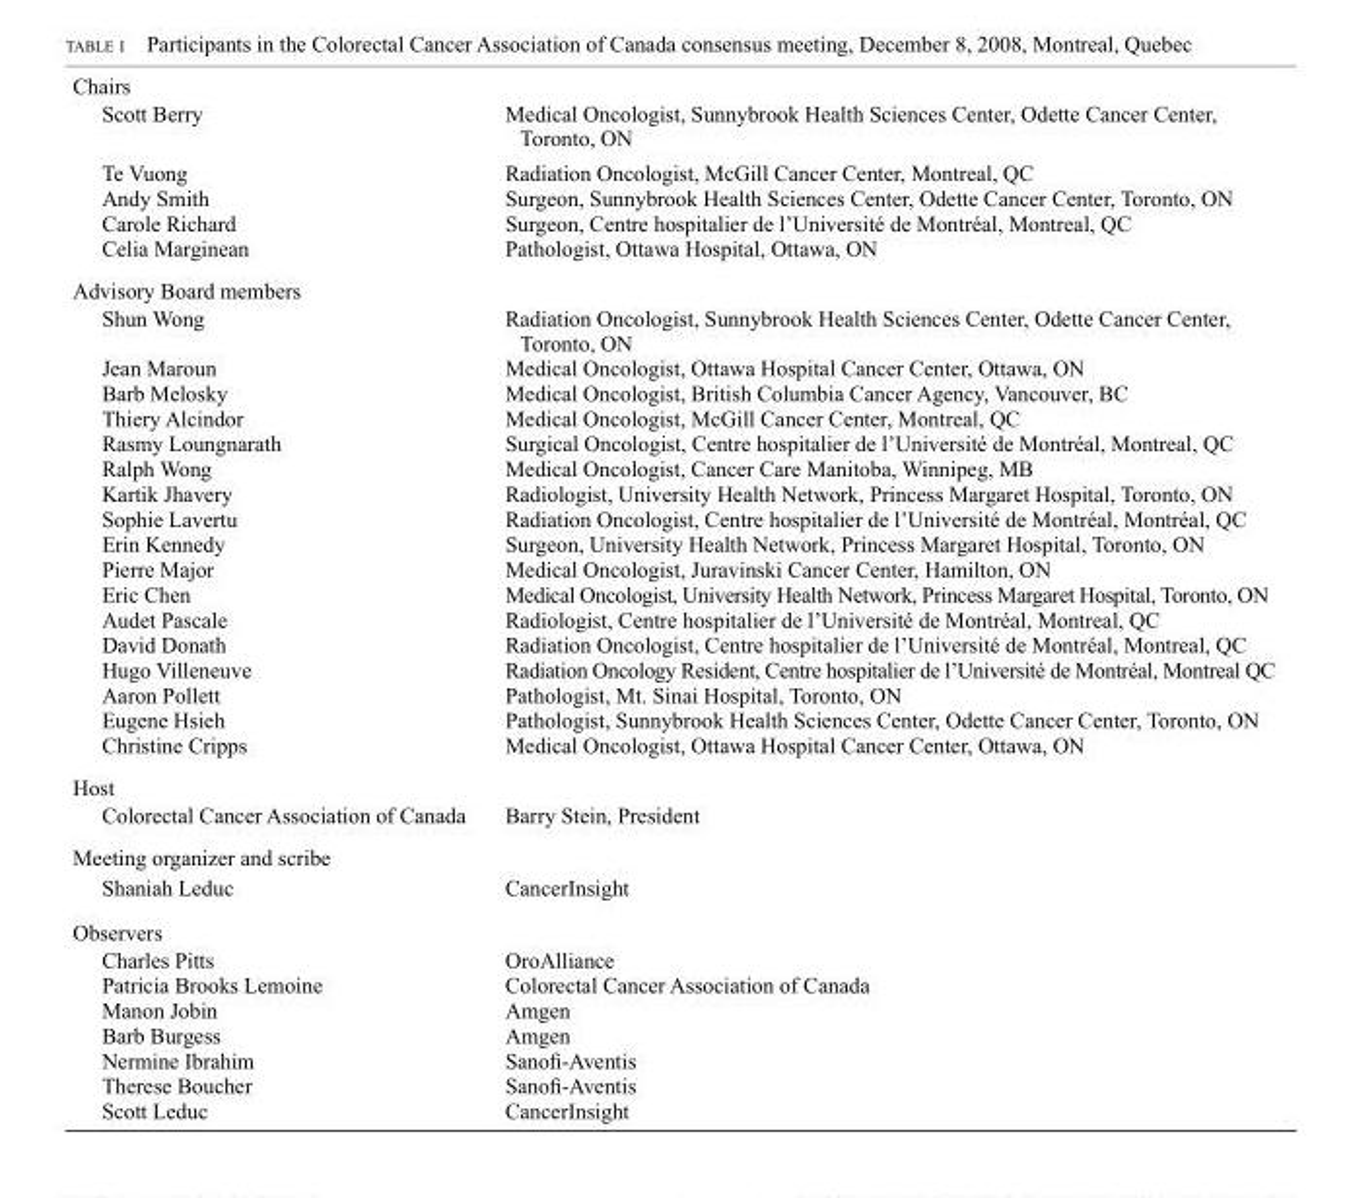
<table><tbody><tr><td colspan="2">Chairs</td></tr><tr><td>Scott Berry</td><td>Medical Oncologist, Sunnybrook Health Sciences Center, Odette Cancer Center, Toronto, ON</td></tr><tr><td>Te Vuong</td><td>Radiation Oncologist, McGill Cancer Center, Montreal, QC</td></tr><tr><td>Andy Smith</td><td>Surgeon, Sunnybrook Health Sciences Center, Odette Cancer Center, Toronto, ON</td></tr><tr><td>Carole Richard</td><td>Surgeon, Centre hospitalier de l’Université de Montréal, Montreal, QC</td></tr><tr><td>Celia Marginean</td><td>Pathologist, Ottawa Hospital, Ottawa, ON</td></tr><tr><td colspan="2">Advisory Board members</td></tr><tr><td>Shun Wong</td><td>Radiation Oncologist, Sunnybrook Health Sciences Center, Odette Cancer Center, Toronto, ON</td></tr><tr><td>Jean Maroun</td><td>Medical Oncologist, Ottawa Hospital Cancer Center, Ottawa, ON</td></tr><tr><td>Barb Melosky</td><td>Medical Oncologist, British Columbia Cancer Agency, Vancouver, BC</td></tr><tr><td>Thiery Alcindor</td><td>Medical Oncologist, McGill Cancer Center, Montreal, QC</td></tr><tr><td>Rasmy Loungnarath</td><td>Surgical Oncologist, Centre hospitalier de l’Université de Montréal, Montreal, QC</td></tr><tr><td>Ralph Wong</td><td>Medical Oncologist, Cancer Care Manitoba, Winnipeg, MB</td></tr><tr><td>Kartik Jhavery</td><td>Radiologist, University Health Network, Princess Margaret Hospital, Toronto, ON</td></tr><tr><td>Sophie Lavertu</td><td>Radiation Oncologist, Centre hospitalier de l’Université de Montréal, Montréal, QC</td></tr><tr><td>Erin Kennedy</td><td>Surgeon, University Health Network, Princess Margaret Hospital, Toronto, ON</td></tr><tr><td>Pierre Major</td><td>Medical Oncologist, Juravinski Cancer Center, Hamilton, ON</td></tr><tr><td>Eric Chen</td><td>Medical Oncologist, University Health Network, Princess Margaret Hospital, Toronto, ON</td></tr><tr><td>Audet Pascale</td><td>Radiologist, Centre hospitalier de l’Université de Montréal, Montreal, QC</td></tr><tr><td>David Donath</td><td>Radiation Oncologist, Centre hospitalier de l’Université de Montréal, Montreal, QC</td></tr><tr><td>Hugo Villeneuve</td><td>Radiation Oncology Resident, Centre hospitalier de l’Université de Montréal, Montreal QC</td></tr><tr><td>Aaron Pollett</td><td>Pathologist, Mt. Sinai Hospital, Toronto, ON</td></tr><tr><td>Eugene Hsieh</td><td>Pathologist, Sunnybrook Health Sciences Center, Odette Cancer Center, Toronto, ON</td></tr><tr><td>Christine Cripps</td><td>Medical Oncologist, Ottawa Hospital Cancer Center, Ottawa, ON</td></tr><tr><td colspan="2">Host</td></tr><tr><td>Colorectal Cancer Association of Canada</td><td>Barry Stein, President</td></tr><tr><td colspan="2">Meeting organizer and scribe</td></tr><tr><td>Shaniah Leduc</td><td>CancerInsight</td></tr><tr><td colspan="2">Observers</td></tr><tr><td>Charles Pitts</td><td>OroAlliance</td></tr><tr><td>Patricia Brooks Lemoine</td><td>Colorectal Cancer Association of Canada</td></tr><tr><td>Manon Jobin</td><td>Amgen</td></tr><tr><td>Barb Burgess</td><td>Amgen</td></tr><tr><td>Nermine Ibrahim</td><td>Sanofi-Aventis</td></tr><tr><td>Therese Boucher</td><td>Sanofi-Aventis</td></tr><tr><td>Scott Leduc</td><td>CancerInsight</td></tr></tbody></table>